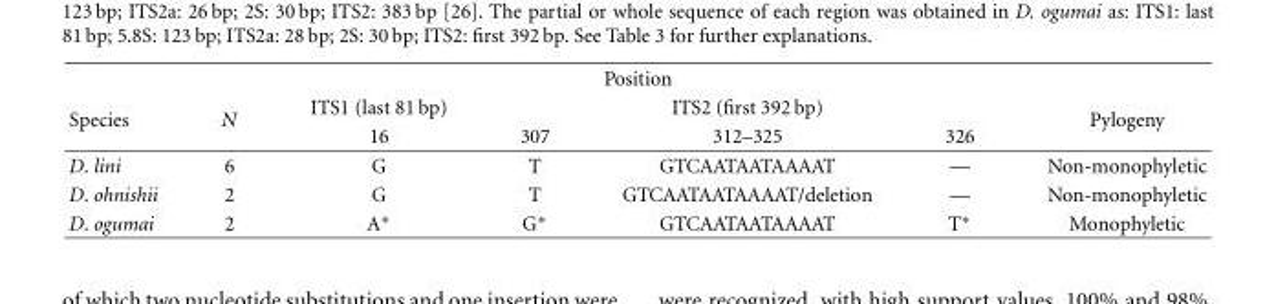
<table><tbody><tr><td colspan="7">Position</td></tr><tr><td rowspan="2">Species</td><td rowspan="2">N</td><td>ITS1 (last 81 bp)</td><td colspan="3">ITS2 (first 392 bp)</td><td rowspan="2">Pylogeny</td></tr><tr><td>16</td><td>307</td><td>312–325</td><td>326</td></tr><tr><td>D. lini</td><td>6</td><td>G</td><td>T</td><td>GTCAATAATAAAAT</td><td>—</td><td>Non-monophyletic</td></tr><tr><td>D. ohnishii</td><td>2</td><td>G</td><td>T</td><td>GTCAATAATAAAAT/deletion</td><td>—</td><td>Non-monophyletic</td></tr><tr><td>D. ogumai</td><td>2</td><td>A∗</td><td>G∗</td><td>GTCAATAATAAAAT</td><td>T∗</td><td>Monophyletic</td></tr></tbody></table>